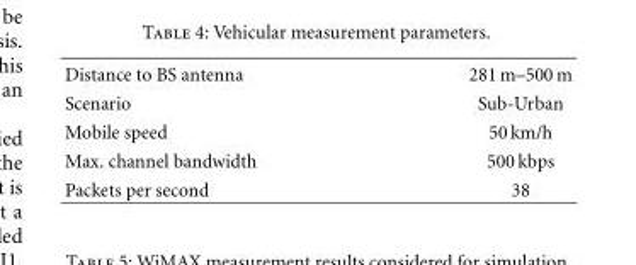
<table><tbody><tr><td>Distance to BS antenna</td><td>281 m–500 m</td></tr><tr><td>Scenario</td><td>Sub-Urban</td></tr><tr><td>Mobile speed</td><td>50 km/h</td></tr><tr><td>Max. channel bandwidth</td><td>500 kbps</td></tr><tr><td>Packets per second</td><td>38</td></tr></tbody></table>